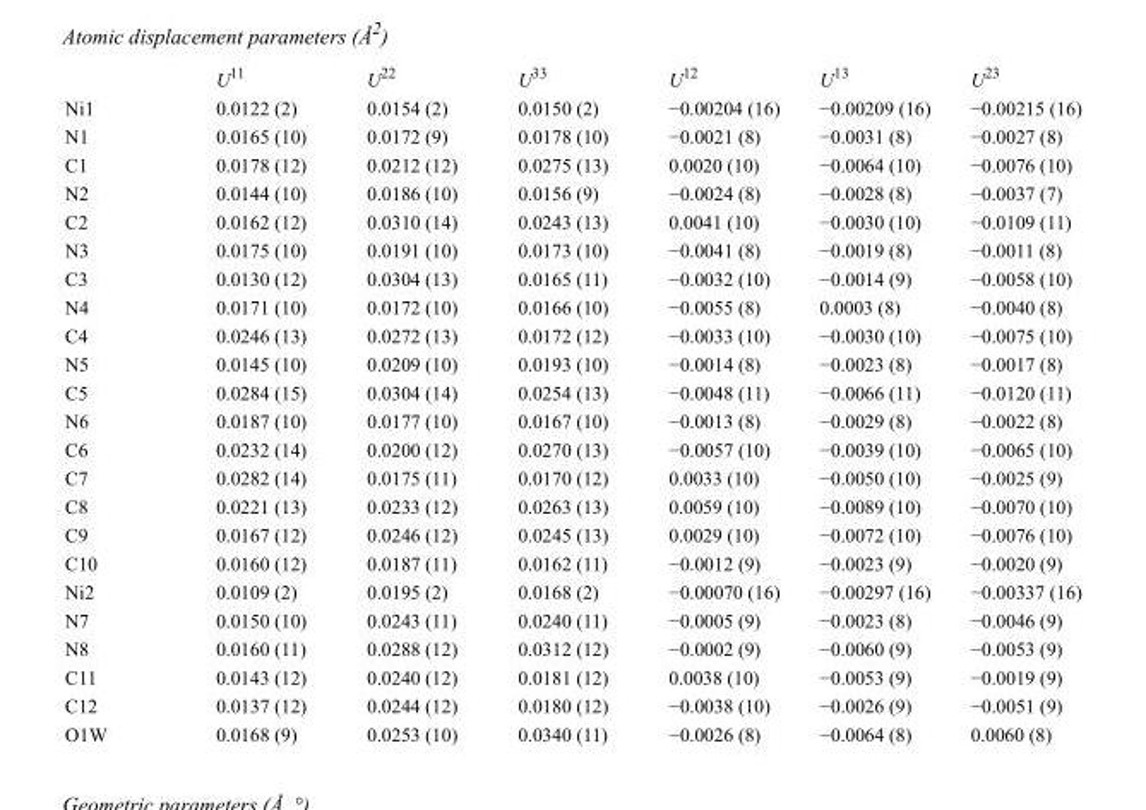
<table><thead><tr><td></td><td>U<sup>11</sup></td><td>U<sup>22</sup></td><td>U<sup>33</sup></td><td>U<sup>12</sup></td><td>U<sup>13</sup></td><td>U<sup>23</sup></td></tr></thead><tbody><tr><td>Ni1</td><td>0.0122 (2)</td><td>0.0154 (2)</td><td>0.0150 (2)</td><td>−0.00204 (16)</td><td>−0.00209 (16)</td><td>−0.00215 (16)</td></tr><tr><td>N1</td><td>0.0165 (10)</td><td>0.0172 (9)</td><td>0.0178 (10)</td><td>−0.0021 (8)</td><td>−0.0031 (8)</td><td>−0.0027 (8)</td></tr><tr><td>C1</td><td>0.0178 (12)</td><td>0.0212 (12)</td><td>0.0275 (13)</td><td>0.0020 (10)</td><td>−0.0064 (10)</td><td>−0.0076 (10)</td></tr><tr><td>N2</td><td>0.0144 (10)</td><td>0.0186 (10)</td><td>0.0156 (9)</td><td>−0.0024 (8)</td><td>−0.0028 (8)</td><td>−0.0037 (7)</td></tr><tr><td>C2</td><td>0.0162 (12)</td><td>0.0310 (14)</td><td>0.0243 (13)</td><td>0.0041 (10)</td><td>−0.0030 (10)</td><td>−0.0109 (11)</td></tr><tr><td>N3</td><td>0.0175 (10)</td><td>0.0191 (10)</td><td>0.0173 (10)</td><td>−0.0041 (8)</td><td>−0.0019 (8)</td><td>−0.0011 (8)</td></tr><tr><td>C3</td><td>0.0130 (12)</td><td>0.0304 (13)</td><td>0.0165 (11)</td><td>−0.0032 (10)</td><td>−0.0014 (9)</td><td>−0.0058 (10)</td></tr><tr><td>N4</td><td>0.0171 (10)</td><td>0.0172 (10)</td><td>0.0166 (10)</td><td>−0.0055 (8)</td><td>0.0003 (8)</td><td>−0.0040 (8)</td></tr><tr><td>C4</td><td>0.0246 (13)</td><td>0.0272 (13)</td><td>0.0172 (12)</td><td>−0.0033 (10)</td><td>−0.0030 (10)</td><td>−0.0075 (10)</td></tr><tr><td>N5</td><td>0.0145 (10)</td><td>0.0209 (10)</td><td>0.0193 (10)</td><td>−0.0014 (8)</td><td>−0.0023 (8)</td><td>−0.0017 (8)</td></tr><tr><td>C5</td><td>0.0284 (15)</td><td>0.0304 (14)</td><td>0.0254 (13)</td><td>−0.0048 (11)</td><td>−0.0066 (11)</td><td>−0.0120 (11)</td></tr><tr><td>N6</td><td>0.0187 (10)</td><td>0.0177 (10)</td><td>0.0167 (10)</td><td>−0.0013 (8)</td><td>−0.0029 (8)</td><td>−0.0022 (8)</td></tr><tr><td>C6</td><td>0.0232 (14)</td><td>0.0200 (12)</td><td>0.0270 (13)</td><td>−0.0057 (10)</td><td>−0.0039 (10)</td><td>−0.0065 (10)</td></tr><tr><td>C7</td><td>0.0282 (14)</td><td>0.0175 (11)</td><td>0.0170 (12)</td><td>0.0033 (10)</td><td>−0.0050 (10)</td><td>−0.0025 (9)</td></tr><tr><td>C8</td><td>0.0221 (13)</td><td>0.0233 (12)</td><td>0.0263 (13)</td><td>0.0059 (10)</td><td>−0.0089 (10)</td><td>−0.0070 (10)</td></tr><tr><td>C9</td><td>0.0167 (12)</td><td>0.0246 (12)</td><td>0.0245 (13)</td><td>0.0029 (10)</td><td>−0.0072 (10)</td><td>−0.0076 (10)</td></tr><tr><td>C10</td><td>0.0160 (12)</td><td>0.0187 (11)</td><td>0.0162 (11)</td><td>−0.0012 (9)</td><td>−0.0023 (9)</td><td>−0.0020 (9)</td></tr><tr><td>Ni2</td><td>0.0109 (2)</td><td>0.0195 (2)</td><td>0.0168 (2)</td><td>−0.00070 (16)</td><td>−0.00297 (16)</td><td>−0.00337 (16)</td></tr><tr><td>N7</td><td>0.0150 (10)</td><td>0.0243 (11)</td><td>0.0240 (11)</td><td>−0.0005 (9)</td><td>−0.0023 (8)</td><td>−0.0046 (9)</td></tr><tr><td>N8</td><td>0.0160 (11)</td><td>0.0288 (12)</td><td>0.0312 (12)</td><td>−0.0002 (9)</td><td>−0.0060 (9)</td><td>−0.0053 (9)</td></tr><tr><td>C11</td><td>0.0143 (12)</td><td>0.0240 (12)</td><td>0.0181 (12)</td><td>0.0038 (10)</td><td>−0.0053 (9)</td><td>−0.0019 (9)</td></tr><tr><td>C12</td><td>0.0137 (12)</td><td>0.0244 (12)</td><td>0.0180 (12)</td><td>−0.0038 (10)</td><td>−0.0026 (9)</td><td>−0.0051 (9)</td></tr><tr><td>O1W</td><td>0.0168 (9)</td><td>0.0253 (10)</td><td>0.0340 (11)</td><td>−0.0026 (8)</td><td>−0.0064 (8)</td><td>0.0060 (8)</td></tr></tbody></table>